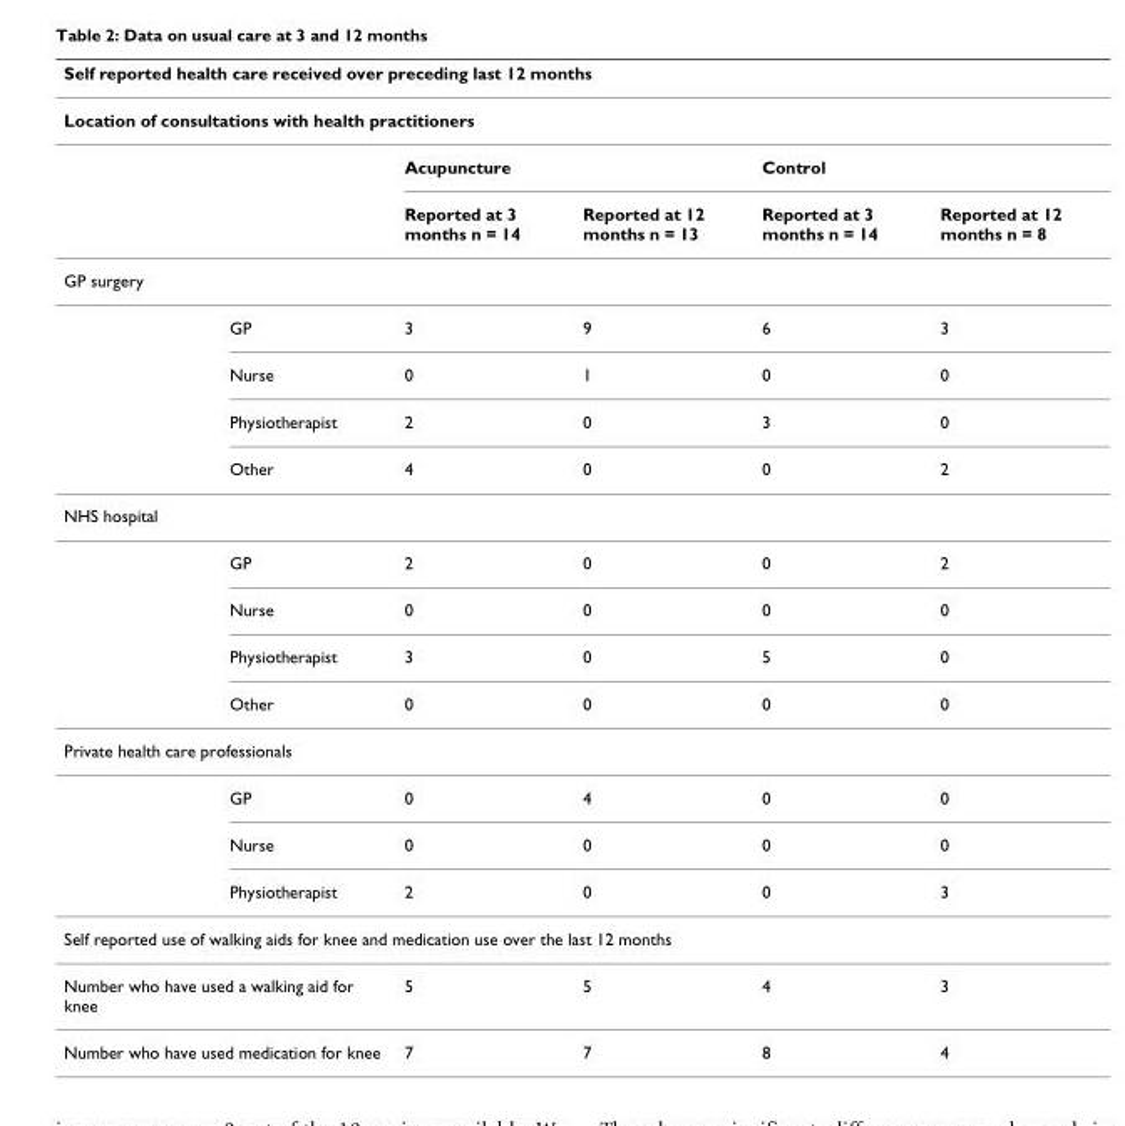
<table><thead><tr><td rowspan="2" colspan="6">Self reported health care received over preceding last 12 months Location of consultations with health practitioners</td></tr><tr></tr><tr><td rowspan="2"></td><td rowspan="2"></td><td colspan="2">Acupuncture</td><td colspan="2">Control</td></tr><tr><td>Reported at 3 months n = 14</td><td>Reported at 12 months n = 13</td><td>Reported at 3 months n = 14</td><td>Reported at 12 months n = 8</td></tr></thead><tbody><tr><td colspan="6">GP surgery</td></tr><tr><td></td><td>GP</td><td>3</td><td>9</td><td>6</td><td>3</td></tr><tr><td></td><td>Nurse</td><td>0</td><td>1</td><td>0</td><td>0</td></tr><tr><td></td><td>Physiotherapist</td><td>2</td><td>0</td><td>3</td><td>0</td></tr><tr><td></td><td>Other</td><td>4</td><td>0</td><td>0</td><td>2</td></tr><tr><td colspan="6">NHS hospital</td></tr><tr><td></td><td>GP</td><td>2</td><td>0</td><td>0</td><td>2</td></tr><tr><td></td><td>Nurse</td><td>0</td><td>0</td><td>0</td><td>0</td></tr><tr><td></td><td>Physiotherapist</td><td>3</td><td>0</td><td>5</td><td>0</td></tr><tr><td></td><td>Other</td><td>0</td><td>0</td><td>0</td><td>0</td></tr><tr><td colspan="6">Private health care professionals</td></tr><tr><td></td><td>GP</td><td>0</td><td>4</td><td>0</td><td>0</td></tr><tr><td></td><td>Nurse</td><td>0</td><td>0</td><td>0</td><td>0</td></tr><tr><td></td><td>Physiotherapist</td><td>2</td><td>0</td><td>0</td><td>3</td></tr><tr><td colspan="6">Self reported use of walking aids for knee and medication use over the last 12 months</td></tr><tr><td colspan="2">Number who have used a walking aid for knee</td><td>5</td><td>5</td><td>4</td><td>3</td></tr><tr><td colspan="2">Number who have used medication for knee</td><td>7</td><td>7</td><td>8</td><td>4</td></tr></tbody></table>